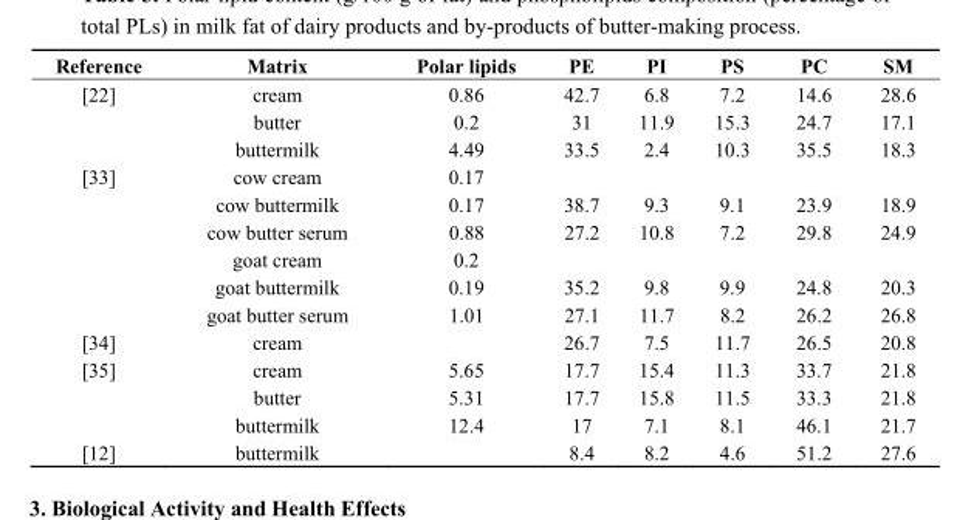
<table><thead><tr><td>Reference</td><td>Matrix</td><td>Polar lipids</td><td>PE</td><td>PI</td><td>PS</td><td>PC</td><td>SM</td></tr></thead><tbody><tr><td rowspan="3">[22]</td><td>cream</td><td>0.86</td><td>42.7</td><td>6.8</td><td>7.2</td><td>14.6</td><td>28.6</td></tr><tr><td>butter</td><td>0.2</td><td>31</td><td>11.9</td><td>15.3</td><td>24.7</td><td>17.1</td></tr><tr><td>buttermilk</td><td>4.49</td><td>33.5</td><td>2.4</td><td>10.3</td><td>35.5</td><td>18.3</td></tr><tr><td rowspan="6">[33]</td><td>cow cream</td><td>0.17</td><td></td><td></td><td></td><td></td><td></td></tr><tr><td>cow buttermilk</td><td>0.17</td><td>38.7</td><td>9.3</td><td>9.1</td><td>23.9</td><td>18.9</td></tr><tr><td>cow butter serum</td><td>0.88</td><td>27.2</td><td>10.8</td><td>7.2</td><td>29.8</td><td>24.9</td></tr><tr><td>goat cream</td><td>0.2</td><td></td><td></td><td></td><td></td><td></td></tr><tr><td>goat buttermilk</td><td>0.19</td><td>35.2</td><td>9.8</td><td>9.9</td><td>24.8</td><td>20.3</td></tr><tr><td>goat butter serum</td><td>1.01</td><td>27.1</td><td>11.7</td><td>8.2</td><td>26.2</td><td>26.8</td></tr><tr><td>[34]</td><td>cream</td><td></td><td>26.7</td><td>7.5</td><td>11.7</td><td>26.5</td><td>20.8</td></tr><tr><td rowspan="3">[35]</td><td>cream</td><td>5.65</td><td>17.7</td><td>15.4</td><td>11.3</td><td>33.7</td><td>21.8</td></tr><tr><td>butter</td><td>5.31</td><td>17.7</td><td>15.8</td><td>11.5</td><td>33.3</td><td>21.8</td></tr><tr><td>buttermilk</td><td>12.4</td><td>17</td><td>7.1</td><td>8.1</td><td>46.1</td><td>21.7</td></tr><tr><td>[12]</td><td>buttermilk</td><td></td><td>8.4</td><td>8.2</td><td>4.6</td><td>51.2</td><td>27.6</td></tr></tbody></table>